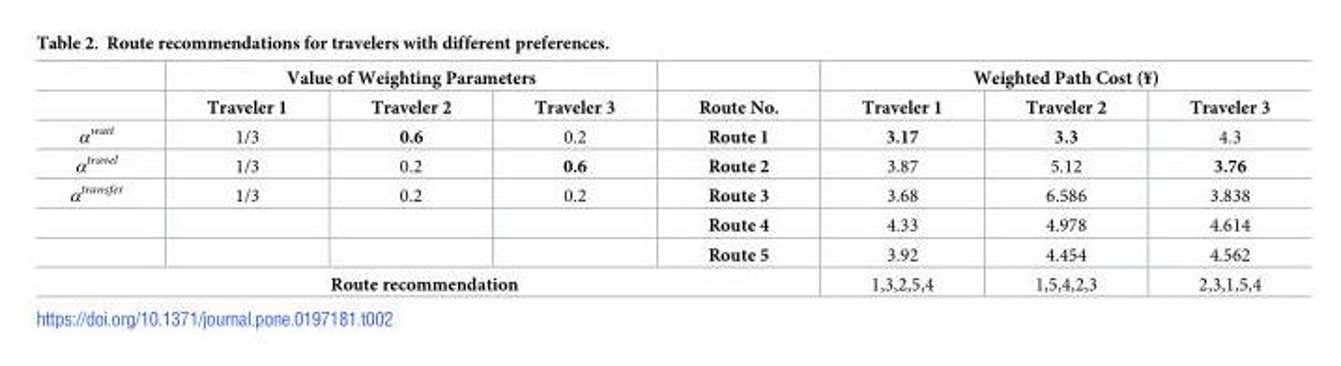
<table><thead><tr><td rowspan="2"></td><td colspan="3">Value of Weighting Parameters</td><td rowspan="2">Route No.</td><td colspan="3">Weighted Path Cost (¥)</td></tr><tr><td>Traveler 1</td><td>Traveler 2</td><td>Traveler 3</td><td>Traveler 1</td><td>Traveler 2</td><td>Traveler 3</td></tr></thead><tbody><tr><td>α<sup>wait</sup></td><td>1/3</td><td>0.6</td><td>0.2</td><td>Route 1</td><td>3.17</td><td>3.3</td><td>4.3</td></tr><tr><td>α<sup>travel</sup></td><td>1/3</td><td>0.2</td><td>0.6</td><td>Route 2</td><td>3.87</td><td>5.12</td><td>3.76</td></tr><tr><td rowspan="3">α<sup>transfer</sup></td><td>1/3</td><td>0.2</td><td>0.2</td><td>Route 3</td><td>3.68</td><td>6.586</td><td>3.838</td></tr><tr><td></td><td></td><td></td><td>Route 4</td><td>4.33</td><td>4.978</td><td>4.614</td></tr><tr><td></td><td></td><td></td><td>Route 5</td><td>3.92</td><td>4.454</td><td>4.562</td></tr><tr><td colspan="5">Route recommendation</td><td>1,3,2,5,4</td><td>1,5,4,2,3</td><td>2,3,1,5,4</td></tr></tbody></table>